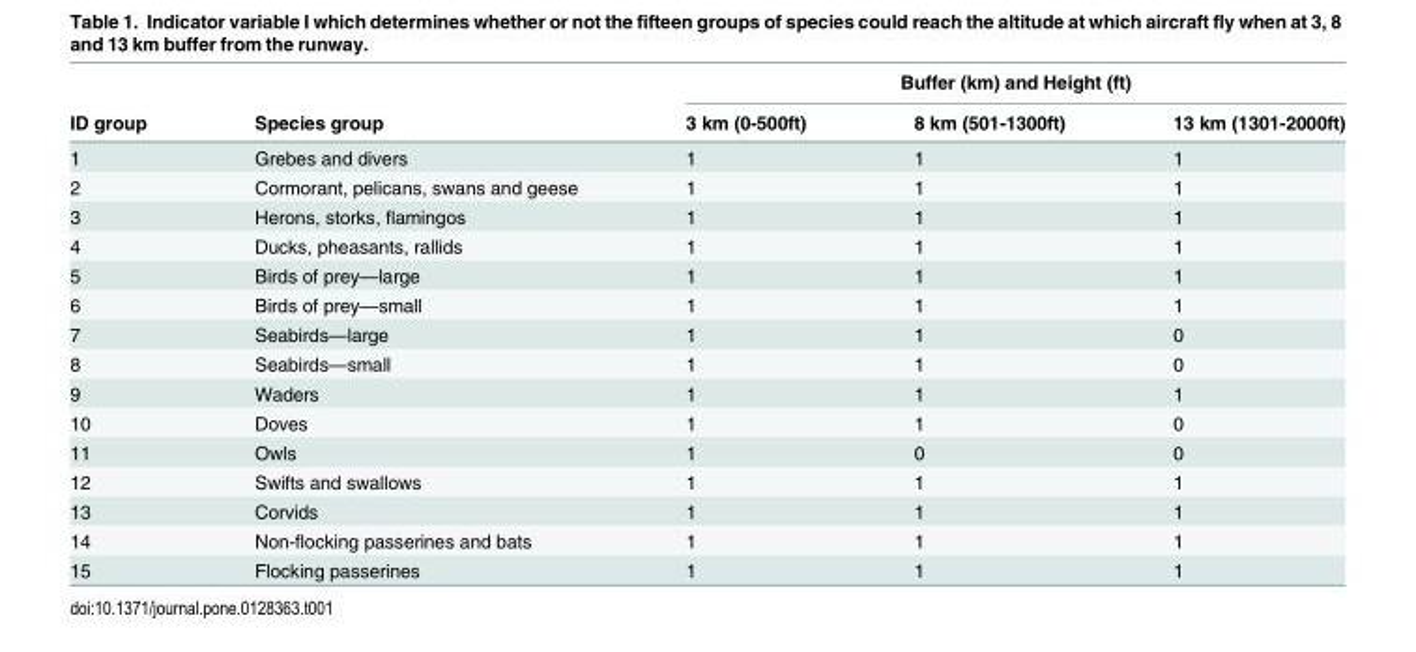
<table><thead><tr><td rowspan="2">ID group</td><td rowspan="2">Species group</td><td colspan="3">Buffer (km) and Height (ft)</td></tr><tr><td>3 km (0-500ft)</td><td>8 km (501-1300ft)</td><td>13 km (1301-2000ft)</td></tr></thead><tbody><tr><td>1</td><td>Grebes and divers</td><td>1</td><td>1</td><td>1</td></tr><tr><td>2</td><td>Cormorant, pelicans, swans and geese</td><td>1</td><td>1</td><td>1</td></tr><tr><td>3</td><td>Herons, storks, flamingos</td><td>1</td><td>1</td><td>1</td></tr><tr><td>4</td><td>Ducks, pheasants, rallids</td><td>1</td><td>1</td><td>1</td></tr><tr><td>5</td><td>Birds of prey—large</td><td>1</td><td>1</td><td>1</td></tr><tr><td>6</td><td>Birds of prey—small</td><td>1</td><td>1</td><td>1</td></tr><tr><td>7</td><td>Seabirds—large</td><td>1</td><td>1</td><td>0</td></tr><tr><td>8</td><td>Seabirds—small</td><td>1</td><td>1</td><td>0</td></tr><tr><td>9</td><td>Waders</td><td>1</td><td>1</td><td>1</td></tr><tr><td>10</td><td>Doves</td><td>1</td><td>1</td><td>0</td></tr><tr><td>11</td><td>Owls</td><td>1</td><td>0</td><td>0</td></tr><tr><td>12</td><td>Swifts and swallows</td><td>1</td><td>1</td><td>1</td></tr><tr><td>13</td><td>Corvids</td><td>1</td><td>1</td><td>1</td></tr><tr><td>14</td><td>Non-flocking passerines and bats</td><td>1</td><td>1</td><td>1</td></tr><tr><td>15</td><td>Flocking passerines</td><td>1</td><td>1</td><td>1</td></tr></tbody></table>